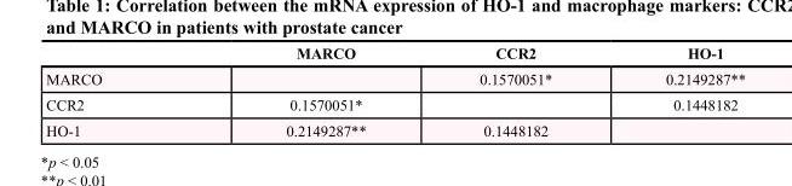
<table><thead><tr><td></td><td>MARCO</td><td>CCR2</td><td>HO-1</td></tr></thead><tbody><tr><td>MARCO</td><td></td><td>0.1570051*</td><td>0.2149287**</td></tr><tr><td>CCR2</td><td>0.1570051*</td><td></td><td>0.1448182</td></tr><tr><td>HO-1</td><td>0.2149287**</td><td>0.1448182</td><td></td></tr></tbody></table>